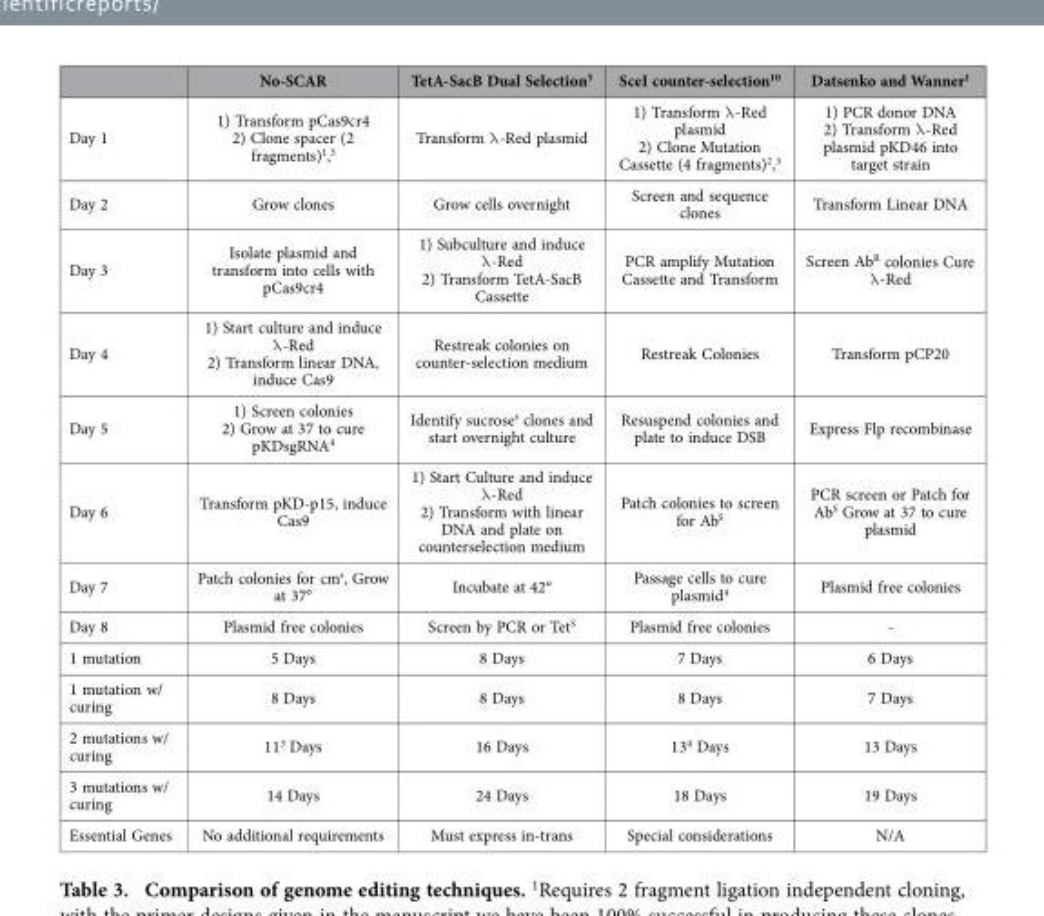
<table><thead><tr><td></td><td>No-SCAR</td><td>TetA-SacB Dual Selection<sup>5</sup></td><td>SceI counter-selection<sup>10</sup></td><td>Datsenko and Wanner<sup>1</sup></td></tr></thead><tbody><tr><td>Day 1</td><td>1) Transform pCas9cr4 2) Clone spacer (2 fragments)<sup>1</sup>,<sup>3</sup></td><td>Transform λ -Red plasmid</td><td>1) Transform λ -Red plasmid 2) Clone Mutation Cassette (4 fragments)<sup>2</sup>,<sup>3</sup></td><td>1) PCR donor DNA 2) Transform λ -Red plasmid pKD46 into target strain</td></tr><tr><td>Day 2</td><td>Grow clones</td><td>Grow cells overnight</td><td>Screen and sequence clones</td><td>Transform Linear DNA</td></tr><tr><td>Day 3</td><td>Isolate plasmid and transform into cells with pCas9cr4</td><td>1) Subculture and induce λ -Red 2) Transform TetA-SacB Cassette</td><td>PCR amplify Mutation Cassette and Transform</td><td>Screen Ab<sup>R</sup> colonies Cure λ -Red</td></tr><tr><td>Day 4</td><td>1) Start culture and induce λ -Red 2) Transform linear DNA, induce Cas9</td><td>Restreak colonies on counter-selection medium</td><td>Restreak Colonies</td><td>Transform pCP20</td></tr><tr><td>Day 5</td><td>1) Screen colonies 2) Grow at 37 to cure pKDsgRNA<sup>4</sup></td><td>Identify sucrose<sup>s</sup> clones and start overnight culture</td><td>Resuspend colonies and plate to induce DSB</td><td>Express Flp recombinase</td></tr><tr><td>Day 6</td><td>Transform pKD-p15, induce Cas9</td><td>1) Start Culture and induce λ -Red 2) Transform with linear DNA and plate on counterselection medium</td><td>Patch colonies to screen for Ab<sup>S</sup></td><td>PCR screen or Patch for Ab<sup>S</sup> Grow at 37 to cure plasmid</td></tr><tr><td>Day 7</td><td>Patch colonies for cm<sup>s</sup>, Grow at 37°</td><td>Incubate at 42°</td><td>Passage cells to cure plasmid<sup>4</sup></td><td>Plasmid free colonies</td></tr><tr><td>Day 8</td><td>Plasmid free colonies</td><td>Screen by PCR or Tet<sup>S</sup></td><td>Plasmid free colonies</td><td>-</td></tr><tr><td>1 mutation</td><td>5 Days</td><td>8 Days</td><td>7 Days</td><td>6 Days</td></tr><tr><td>1 mutation w/ curing</td><td>8 Days</td><td>8 Days</td><td>8 Days</td><td>7 Days</td></tr><tr><td>2 mutations w/ curing</td><td>11<sup>3</sup> Days</td><td>16 Days</td><td>13<sup>4</sup> Days</td><td>13 Days</td></tr><tr><td>3 mutations w/ curing</td><td>14 Days</td><td>24 Days</td><td>18 Days</td><td>19 Days</td></tr><tr><td>Essential Genes</td><td>No additional requirements</td><td>Must express in-trans</td><td>Special considerations</td><td>N/A</td></tr></tbody></table>